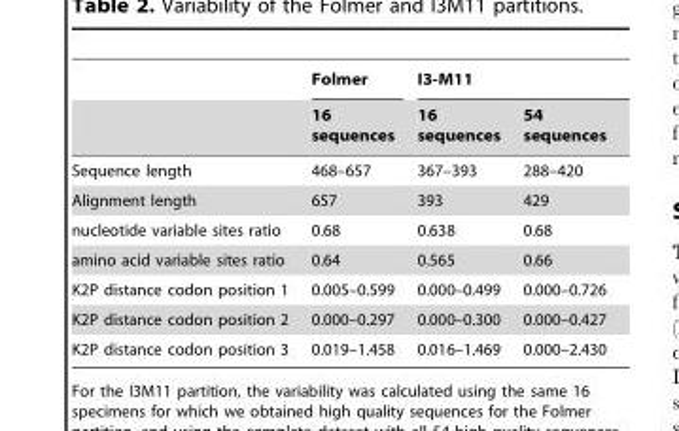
<table><thead><tr><td rowspan="2"></td><td rowspan="2">Folmer 16 sequences</td><td colspan="2">I3-M11</td></tr><tr><td>16 sequences</td><td>54 sequences</td></tr></thead><tbody><tr><td>Sequence length</td><td>468–657</td><td>367–393</td><td>288–420</td></tr><tr><td>Alignment length</td><td>657</td><td>393</td><td>429</td></tr><tr><td>nucleotide variable sites ratio</td><td>0.68</td><td>0.638</td><td>0.68</td></tr><tr><td>amino acid variable sites ratio</td><td>0.64</td><td>0.565</td><td>0.66</td></tr><tr><td>K2P distance codon position 1</td><td>0.005–0.599</td><td>0.000–0.499</td><td>0.000–0.726</td></tr><tr><td>K2P distance codon position 2</td><td>0.000–0.297</td><td>0.000–0.300</td><td>0.000–0.427</td></tr><tr><td>K2P distance codon position 3</td><td>0.019–1.458</td><td>0.016–1.469</td><td>0.000–2.430</td></tr></tbody></table>